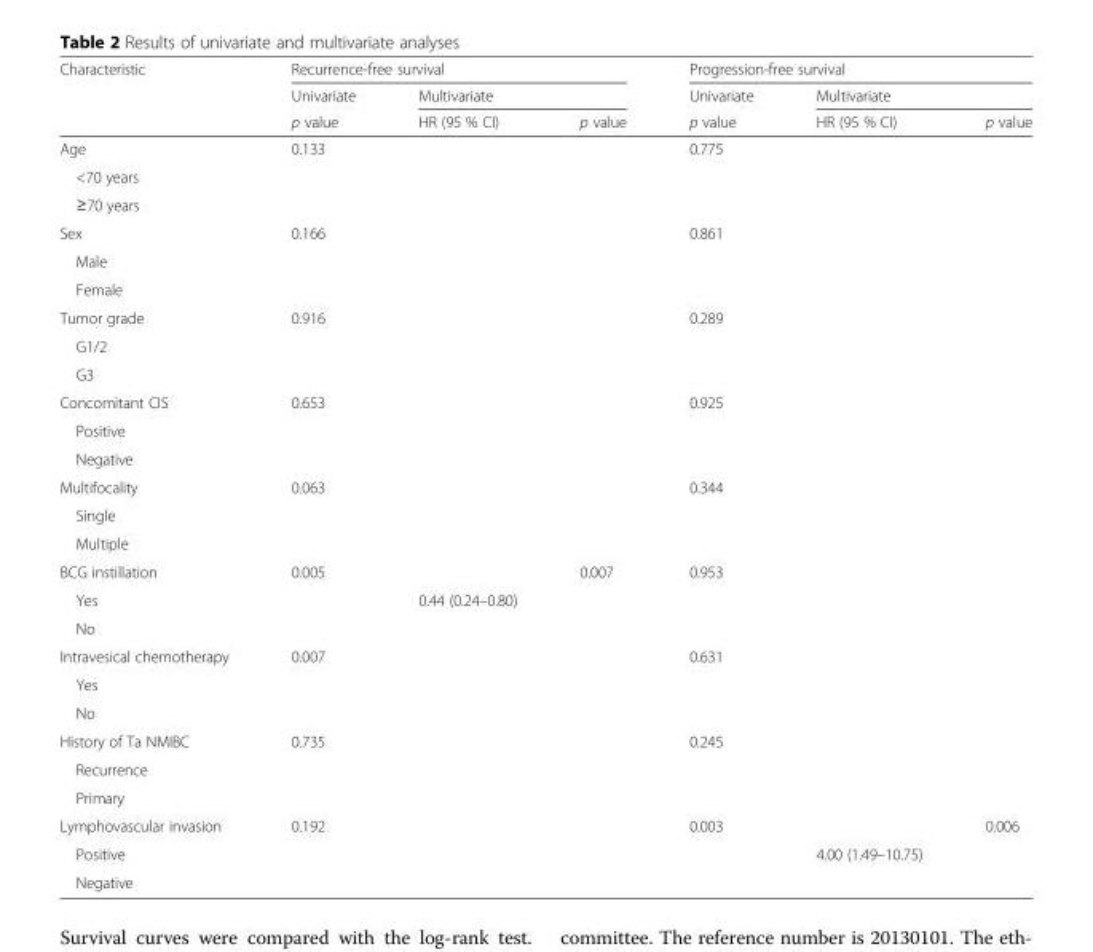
<table><thead><tr><td rowspan="3">Characteristic</td><td colspan="3">Recurrence-free survival</td><td colspan="3">Progression-free survival</td></tr><tr><td rowspan="2">Univariate p value</td><td colspan="2">Multivariate</td><td rowspan="2">Univariate p value</td><td colspan="2">Multivariate</td></tr><tr><td>HR (95 % CI)</td><td>p value</td><td>HR (95 % CI)</td><td>p value</td></tr></thead><tbody><tr><td>Age</td><td>0.133</td><td></td><td></td><td>0.775</td><td></td><td></td></tr><tr><td colspan="7">&lt;70 years</td></tr><tr><td colspan="7">≥70 years</td></tr><tr><td>Sex</td><td>0.166</td><td></td><td></td><td>0.861</td><td></td><td></td></tr><tr><td colspan="7">Male</td></tr><tr><td colspan="7">Female</td></tr><tr><td>Tumor grade</td><td>0.916</td><td></td><td></td><td>0.289</td><td></td><td></td></tr><tr><td colspan="7">G1/2</td></tr><tr><td colspan="7">G3</td></tr><tr><td>Concomitant CIS</td><td>0.653</td><td></td><td></td><td>0.925</td><td></td><td></td></tr><tr><td colspan="7">Positive</td></tr><tr><td colspan="7">Negative</td></tr><tr><td>Multifocality</td><td>0.063</td><td></td><td></td><td>0.344</td><td></td><td></td></tr><tr><td colspan="7">Single</td></tr><tr><td colspan="7">Multiple</td></tr><tr><td>BCG instillation</td><td>0.005</td><td></td><td>0.007</td><td>0.953</td><td></td><td></td></tr><tr><td>Yes</td><td></td><td>0.44 (0.24–0.80)</td><td></td><td></td><td></td><td></td></tr><tr><td colspan="7">No</td></tr><tr><td>Intravesical chemotherapy</td><td>0.007</td><td></td><td></td><td>0.631</td><td></td><td></td></tr><tr><td colspan="7">Yes</td></tr><tr><td colspan="7">No</td></tr><tr><td>History of Ta NMIBC</td><td>0.735</td><td></td><td></td><td>0.245</td><td></td><td></td></tr><tr><td colspan="7">Recurrence</td></tr><tr><td colspan="7">Primary</td></tr><tr><td>Lymphovascular invasion</td><td>0.192</td><td></td><td></td><td>0.003</td><td></td><td>0.006</td></tr><tr><td>Positive</td><td></td><td></td><td></td><td></td><td>4.00 (1.49–10.75)</td><td></td></tr><tr><td>Negative</td><td></td><td></td><td></td><td></td><td></td><td></td></tr></tbody></table>